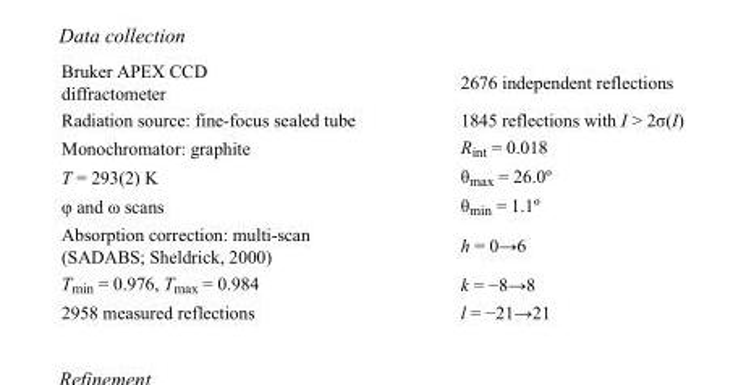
<table><tbody><tr><td>Bruker APEX CCD diffractometer</td><td>2676 independent reflections</td></tr><tr><td>Radiation source: fine-focus sealed tube</td><td>1845 reflections with I &gt; 2σ(I)</td></tr><tr><td>Monochromator: graphite</td><td>R<sub>int</sub> = 0.018</td></tr><tr><td>T = 293(2) K</td><td>θ<sub>max</sub> = 26.0º</td></tr><tr><td>φ and ω scans</td><td>θ<sub>min</sub> = 1.1º</td></tr><tr><td>Absorption correction: multi-scan (SADABS; Sheldrick, 2000)</td><td>h = 0→6</td></tr><tr><td>T<sub>min</sub> = 0.976, T<sub>max</sub> = 0.984</td><td>k = −8→8</td></tr><tr><td>2958 measured reflections</td><td>l = −21→21</td></tr></tbody></table>